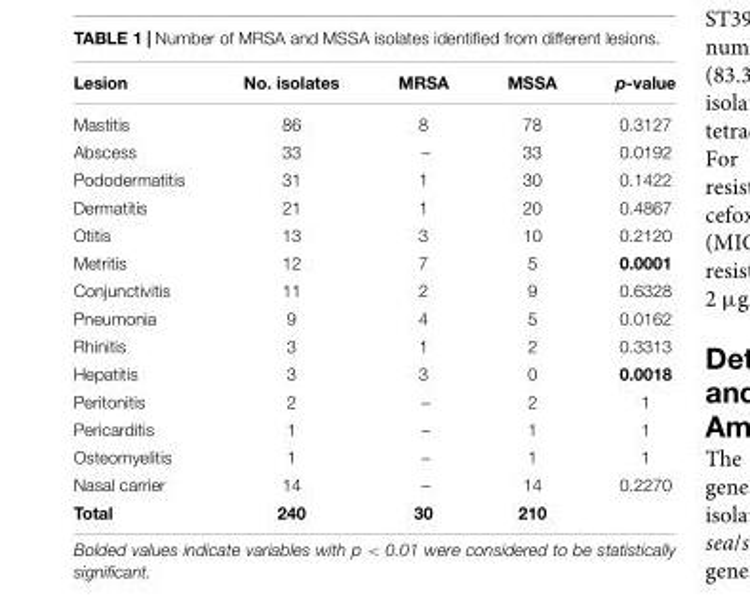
<table><thead><tr><td>Lesion</td><td>No. isolates</td><td>MRSA</td><td>MSSA</td><td>p-value</td></tr></thead><tbody><tr><td>Mastitis</td><td>86</td><td>8</td><td>78</td><td>0.3127</td></tr><tr><td>Abscess</td><td>33</td><td>–</td><td>33</td><td>0.0192</td></tr><tr><td>Pododermatitis</td><td>31</td><td>1</td><td>30</td><td>0.1422</td></tr><tr><td>Dermatitis</td><td>21</td><td>1</td><td>20</td><td>0.4867</td></tr><tr><td>Otitis</td><td>13</td><td>3</td><td>10</td><td>0.2120</td></tr><tr><td>Metritis</td><td>12</td><td>7</td><td>5</td><td>0.0001</td></tr><tr><td>Conjunctivitis</td><td>11</td><td>2</td><td>9</td><td>0.6328</td></tr><tr><td>Pneumonia</td><td>9</td><td>4</td><td>5</td><td>0.0162</td></tr><tr><td>Rhinitis</td><td>3</td><td>1</td><td>2</td><td>0.3313</td></tr><tr><td>Hepatitis</td><td>3</td><td>3</td><td>0</td><td>0.0018</td></tr><tr><td>Peritonitis</td><td>2</td><td>–</td><td>2</td><td>1</td></tr><tr><td>Pericarditis</td><td>1</td><td>–</td><td>1</td><td>1</td></tr><tr><td>Osteomyelitis</td><td>1</td><td>–</td><td>1</td><td>1</td></tr><tr><td>Nasal carrier</td><td>14</td><td>–</td><td>14</td><td>0.2270</td></tr><tr><td>Total</td><td>240</td><td>30</td><td>210</td><td></td></tr></tbody></table>